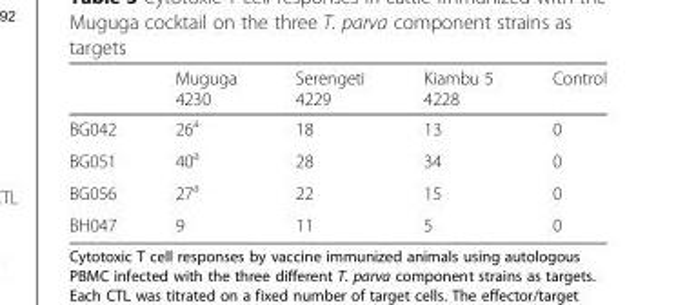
<table><thead><tr><td></td><td>Muguga 4230</td><td>Serengeti 4229</td><td>Kiambu 5 4228</td><td>Control</td></tr></thead><tbody><tr><td>BG042</td><td>26<sup>a</sup></td><td>18</td><td>13</td><td>0</td></tr><tr><td>BG051</td><td>40<sup>a</sup></td><td>28</td><td>34</td><td>0</td></tr><tr><td>BG056</td><td>27<sup>a</sup></td><td>22</td><td>15</td><td>0</td></tr><tr><td>BH047</td><td>9</td><td>11</td><td>5</td><td>0</td></tr></tbody></table>